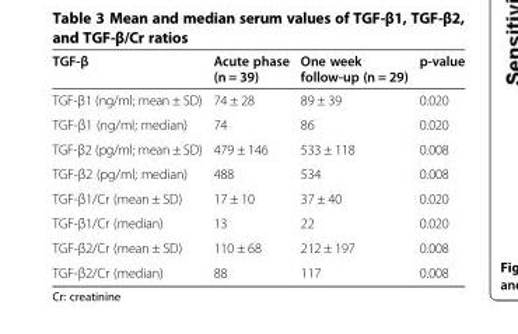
<table><thead><tr><td>TGF-β</td><td>Acute phase (n = 39)</td><td>One week follow-up (n = 29)</td><td>p-value</td></tr></thead><tbody><tr><td>TGF-β1 (ng/ml; mean ± SD)</td><td>74 ± 28</td><td>89 ± 39</td><td>0.020</td></tr><tr><td>TGF-β1 (ng/ml; median)</td><td>74</td><td>86</td><td>0.020</td></tr><tr><td>TGF-β2 (pg/ml; mean ± SD)</td><td>479 ± 146</td><td>533 ± 118</td><td>0.008</td></tr><tr><td>TGF-β2 (pg/ml; median)</td><td>488</td><td>534</td><td>0.008</td></tr><tr><td>TGF-β1/Cr (mean ± SD)</td><td>17 ± 10</td><td>37 ± 40</td><td>0.020</td></tr><tr><td>TGF-β1/Cr (median)</td><td>13</td><td>22</td><td>0.020</td></tr><tr><td>TGF-β2/Cr (mean ± SD)</td><td>110 ± 68</td><td>212 ± 197</td><td>0.008</td></tr><tr><td>TGF-β2/Cr (median)</td><td>88</td><td>117</td><td>0.008</td></tr></tbody></table>